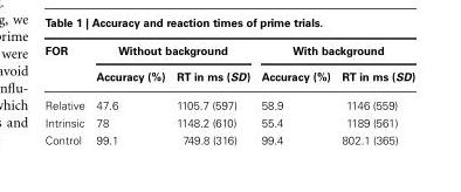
<table><thead><tr><td rowspan="2">FOR</td><td colspan="2">Without background</td><td colspan="2">With background</td></tr><tr><td>Accuracy (%)</td><td>RT in ms (SD)</td><td>Accuracy (%)</td><td>RT in ms (SD)</td></tr></thead><tbody><tr><td>Relative</td><td>47.6</td><td>1105.7 (597)</td><td>58.9</td><td>1146 (559)</td></tr><tr><td>Intrinsic</td><td>78</td><td>1148.2 (610)</td><td>55.4</td><td>1189 (561)</td></tr><tr><td>Control</td><td>99.1</td><td>749.8 (316)</td><td>99.4</td><td>802.1 (365)</td></tr></tbody></table>